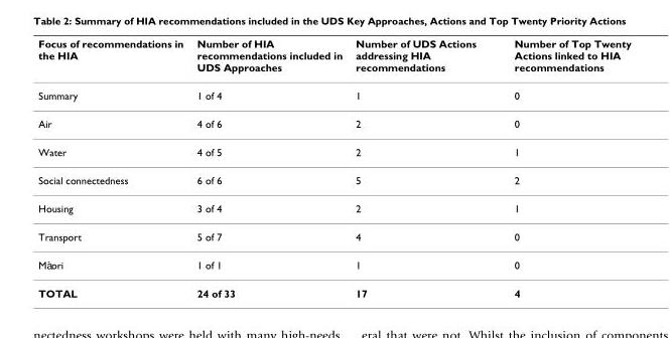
<table><thead><tr><td>Focus of recommendations in the HIA</td><td>Number of HIA recommendations included in UDS Approaches</td><td>Number of UDS Actions addressing HIA recommendations</td><td>Number of Top Twenty Actions linked to HIA recommendations</td></tr></thead><tbody><tr><td>Summary</td><td>1 of 4</td><td>1</td><td>0</td></tr><tr><td>Air</td><td>4 of 6</td><td>2</td><td>0</td></tr><tr><td>Water</td><td>4 of 5</td><td>2</td><td>1</td></tr><tr><td>Social connectedness</td><td>6 of 6</td><td>5</td><td>2</td></tr><tr><td>Housing</td><td>3 of 4</td><td>2</td><td>1</td></tr><tr><td>Transport</td><td>5 of 7</td><td>4</td><td>0</td></tr><tr><td>Ma¯ori</td><td>1 of 1</td><td>1</td><td>0</td></tr><tr><td>TOTAL</td><td>24 of 33</td><td>17</td><td>4</td></tr></tbody></table>